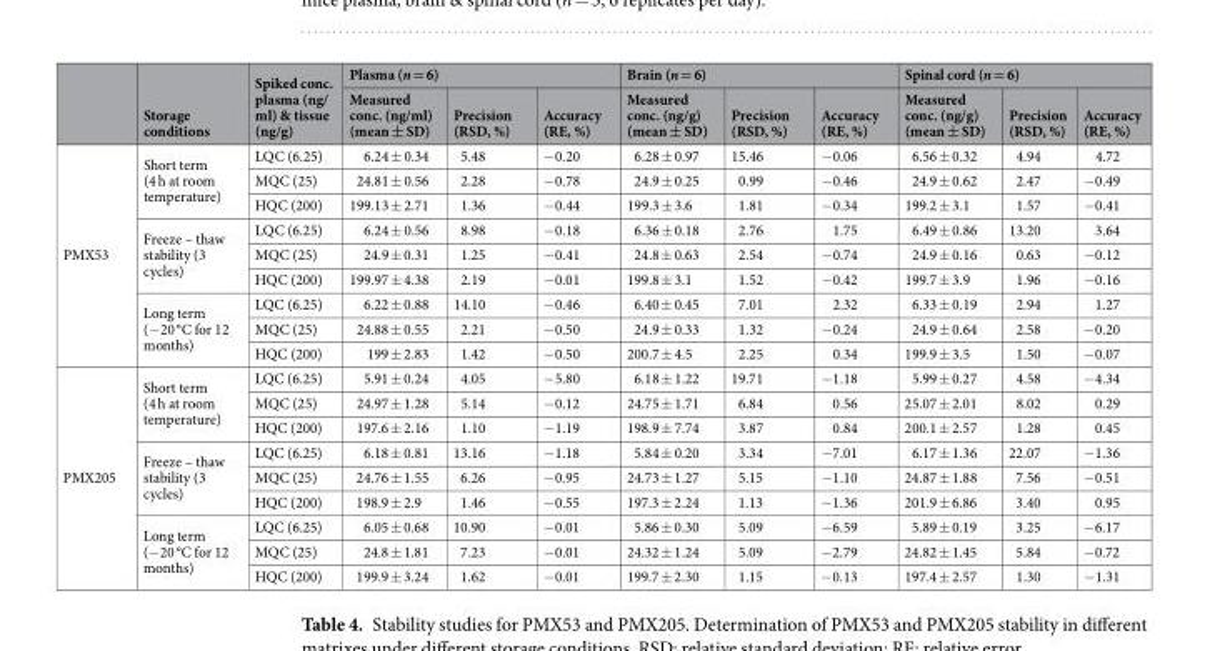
<table><thead><tr><td rowspan="2"></td><td rowspan="2">Storage conditions</td><td rowspan="2">Spiked conc. plasma (ng/ ml) &amp; tissue (ng/g)</td><td colspan="3">Plasma (n = 6)</td><td colspan="3">Brain (n = 6)</td><td colspan="3">Spinal cord (n = 6)</td></tr><tr><td>Measured conc. (ng/ml) (mean ± SD)</td><td>Precision (RSD, %)</td><td>Accuracy (RE, %)</td><td>Measured conc. (ng/g) (mean ± SD)</td><td>Precision (RSD, %)</td><td>Accuracy (RE, %)</td><td>Measured conc. (ng/g) (mean ± SD)</td><td>Precision (RSD, %)</td><td>Accuracy (RE, %)</td></tr></thead><tbody><tr><td rowspan="9">PMX53</td><td rowspan="3">Short term (4 h at room temperature)</td><td>LQC (6.25)</td><td>6.24 ± 0.34</td><td>5.48</td><td>−0.20</td><td>6.28 ± 0.97</td><td>15.46</td><td>−0.06</td><td>6.56 ± 0.32</td><td>4.94</td><td>4.72</td></tr><tr><td>MQC (25)</td><td>24.81 ± 0.56</td><td>2.28</td><td>−0.78</td><td>24.9 ± 0.25</td><td>0.99</td><td>−0.46</td><td>24.9 ± 0.62</td><td>2.47</td><td>−0.49</td></tr><tr><td>HQC (200)</td><td>199.13 ± 2.71</td><td>1.36</td><td>−0.44</td><td>199.3 ± 3.6</td><td>1.81</td><td>−0.34</td><td>199.2 ± 3.1</td><td>1.57</td><td>−0.41</td></tr><tr><td rowspan="3">Freeze – thaw stability (3 cycles)</td><td>LQC (6.25)</td><td>6.24 ± 0.56</td><td>8.98</td><td>−0.18</td><td>6.36 ± 0.18</td><td>2.76</td><td>1.75</td><td>6.49 ± 0.86</td><td>13.20</td><td>3.64</td></tr><tr><td>MQC (25)</td><td>24.9 ± 0.31</td><td>1.25</td><td>−0.41</td><td>24.8 ± 0.63</td><td>2.54</td><td>−0.74</td><td>24.9 ± 0.16</td><td>0.63</td><td>−0.12</td></tr><tr><td>HQC (200)</td><td>199.97 ± 4.38</td><td>2.19</td><td>−0.01</td><td>199.8 ± 3.1</td><td>1.52</td><td>−0.42</td><td>199.7 ± 3.9</td><td>1.96</td><td>−0.16</td></tr><tr><td rowspan="3">Long term (−20 °C for 12 months)</td><td>LQC (6.25)</td><td>6.22 ± 0.88</td><td>14.10</td><td>−0.46</td><td>6.40 ± 0.45</td><td>7.01</td><td>2.32</td><td>6.33 ± 0.19</td><td>2.94</td><td>1.27</td></tr><tr><td>MQC (25)</td><td>24.88 ± 0.55</td><td>2.21</td><td>−0.50</td><td>24.9 ± 0.33</td><td>1.32</td><td>−0.24</td><td>24.9 ± 0.64</td><td>2.58</td><td>−0.20</td></tr><tr><td>HQC (200)</td><td>199 ± 2.83</td><td>1.42</td><td>−0.50</td><td>200.7 ± 4.5</td><td>2.25</td><td>0.34</td><td>199.9 ± 3.5</td><td>1.50</td><td>−0.07</td></tr><tr><td rowspan="9">PMX205</td><td rowspan="3">Short term (4 h at room temperature)</td><td>LQC (6.25)</td><td>5.91 ± 0.24</td><td>4.05</td><td>−5.80</td><td>6.18 ± 1.22</td><td>19.71</td><td>−1.18</td><td>5.99 ± 0.27</td><td>4.58</td><td>−4.34</td></tr><tr><td>MQC (25)</td><td>24.97 ± 1.28</td><td>5.14</td><td>−0.12</td><td>24.75 ± 1.71</td><td>6.84</td><td>0.56</td><td>25.07 ± 2.01</td><td>8.02</td><td>0.29</td></tr><tr><td>HQC (200)</td><td>197.6 ± 2.16</td><td>1.10</td><td>−1.19</td><td>198.9 ± 7.74</td><td>3.87</td><td>0.84</td><td>200.1 ± 2.57</td><td>1.28</td><td>0.45</td></tr><tr><td rowspan="3">Freeze – thaw stability (3 cycles)</td><td>LQC (6.25)</td><td>6.18 ± 0.81</td><td>13.16</td><td>−1.18</td><td>5.84 ± 0.20</td><td>3.34</td><td>−7.01</td><td>6.17 ± 1.36</td><td>22.07</td><td>−1.36</td></tr><tr><td>MQC (25)</td><td>24.76 ± 1.55</td><td>6.26</td><td>−0.95</td><td>24.73 ± 1.27</td><td>5.15</td><td>−1.10</td><td>24.87 ± 1.88</td><td>7.56</td><td>−0.51</td></tr><tr><td>HQC (200)</td><td>198.9 ± 2.9</td><td>1.46</td><td>−0.55</td><td>197.3 ± 2.24</td><td>1.13</td><td>−1.36</td><td>201.9 ± 6.86</td><td>3.40</td><td>0.95</td></tr><tr><td rowspan="3">Long term (−20 °C for 12 months)</td><td>LQC (6.25)</td><td>6.05 ± 0.68</td><td>10.90</td><td>−0.01</td><td>5.86 ± 0.30</td><td>5.09</td><td>−6.59</td><td>5.89 ± 0.19</td><td>3.25</td><td>−6.17</td></tr><tr><td>MQC (25)</td><td>24.8 ± 1.81</td><td>7.23</td><td>−0.01</td><td>24.32 ± 1.24</td><td>5.09</td><td>−2.79</td><td>24.82 ± 1.45</td><td>5.84</td><td>−0.72</td></tr><tr><td>HQC (200)</td><td>199.9 ± 3.24</td><td>1.62</td><td>−0.01</td><td>199.7 ± 2.30</td><td>1.15</td><td>−0.13</td><td>197.4 ± 2.57</td><td>1.30</td><td>−1.31</td></tr></tbody></table>